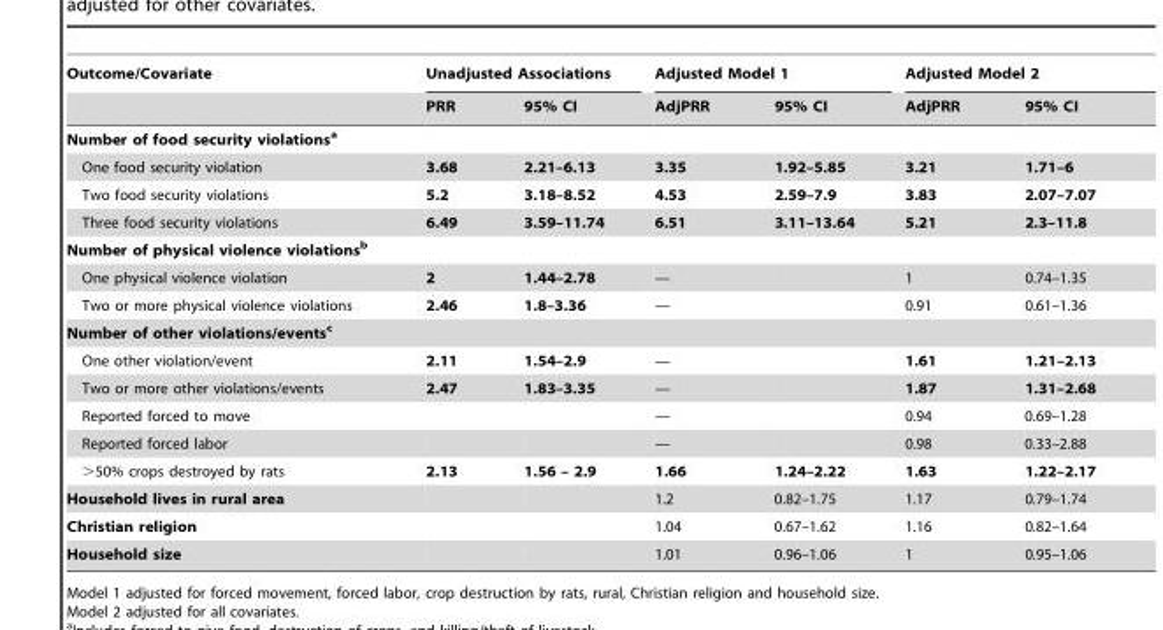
<table><thead><tr><td rowspan="2">Outcome/Covariate</td><td colspan="2">Unadjusted Associations</td><td colspan="2">Adjusted Model 1</td><td colspan="2">Adjusted Model 2</td></tr><tr><td>PRR</td><td>95% CI</td><td>AdjPRR</td><td>95% CI</td><td>AdjPRR</td><td>95% CI</td></tr></thead><tbody><tr><td colspan="7">Number of food security violationsa</td></tr><tr><td>One food security violation</td><td>3.68</td><td>2.21–6.13</td><td>3.35</td><td>1.92–5.85</td><td>3.21</td><td>1.71–6</td></tr><tr><td>Two food security violations</td><td>5.2</td><td>3.18–8.52</td><td>4.53</td><td>2.59–7.9</td><td>3.83</td><td>2.07–7.07</td></tr><tr><td>Three food security violations</td><td>6.49</td><td>3.59–11.74</td><td>6.51</td><td>3.11–13.64</td><td>5.21</td><td>2.3–11.8</td></tr><tr><td colspan="7">Number of physical violence violationsb</td></tr><tr><td>One physical violence violation</td><td>2</td><td>1.44–2.78</td><td>—</td><td></td><td>1</td><td>0.74–1.35</td></tr><tr><td>Two or more physical violence violations</td><td>2.46</td><td>1.8–3.36</td><td>—</td><td></td><td>0.91</td><td>0.61–1.36</td></tr><tr><td colspan="7">Number of other violations/eventsc</td></tr><tr><td>One other violation/event</td><td>2.11</td><td>1.54–2.9</td><td>—</td><td></td><td>1.61</td><td>1.21–2.13</td></tr><tr><td>Two or more other violations/events</td><td>2.47</td><td>1.83–3.35</td><td>—</td><td></td><td>1.87</td><td>1.31–2.68</td></tr><tr><td>Reported forced to move</td><td></td><td></td><td>—</td><td></td><td>0.94</td><td>0.69–1.28</td></tr><tr><td>Reported forced labor</td><td></td><td></td><td>—</td><td></td><td>0.98</td><td>0.33–2.88</td></tr><tr><td>&gt;50% crops destroyed by rats</td><td>2.13</td><td>1.56 – 2.9</td><td>1.66</td><td>1.24–2.22</td><td>1.63</td><td>1.22–2.17</td></tr><tr><td>Household lives in rural area</td><td></td><td></td><td>1.2</td><td>0.82–1.75</td><td>1.17</td><td>0.79–1.74</td></tr><tr><td>Christian religion</td><td></td><td></td><td>1.04</td><td>0.67–1.62</td><td>1.16</td><td>0.82–1.64</td></tr><tr><td>Household size</td><td></td><td></td><td>1.01</td><td>0.96–1.06</td><td>1</td><td>0.95–1.06</td></tr></tbody></table>